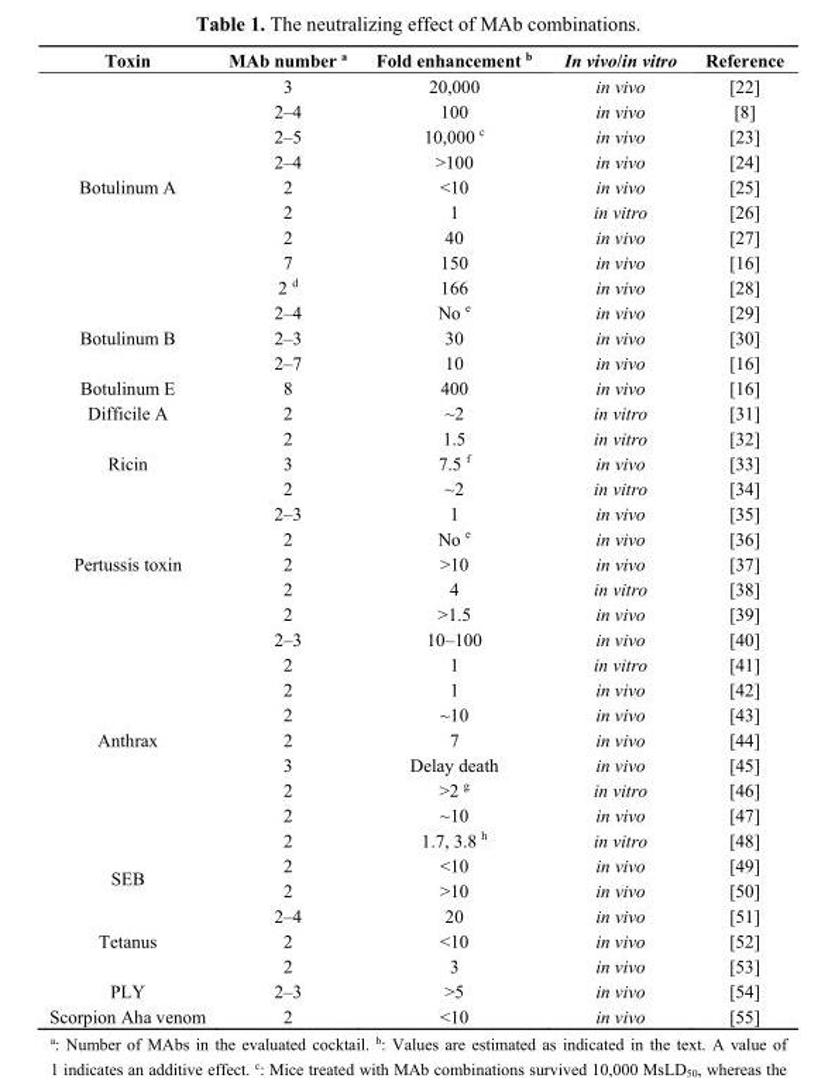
<table><thead><tr><td>Toxin</td><td>MAb number <sup>a</sup></td><td>Fold enhancement <sup>b</sup></td><td>In vivo/in vitro</td><td>Reference</td></tr></thead><tbody><tr><td rowspan="9">Botulinum A</td><td>3</td><td>20,000</td><td>in vivo</td><td>[22]</td></tr><tr><td>2–4</td><td>100</td><td>in vivo</td><td>[8]</td></tr><tr><td>2–5</td><td>10,000 <sup>c</sup></td><td>in vivo</td><td>[23]</td></tr><tr><td>2–4</td><td>&gt;100</td><td>in vivo</td><td>[24]</td></tr><tr><td>2</td><td>&lt;10</td><td>in vivo</td><td>[25]</td></tr><tr><td>2</td><td>1</td><td>in vitro</td><td>[26]</td></tr><tr><td>2</td><td>40</td><td>in vivo</td><td>[27]</td></tr><tr><td>7</td><td>150</td><td>in vivo</td><td>[16]</td></tr><tr><td>2 <sup>d</sup></td><td>166</td><td>in vivo</td><td>[28]</td></tr><tr><td rowspan="3">Botulinum B</td><td>2–4</td><td>No <sup>e</sup></td><td>in vivo</td><td>[29]</td></tr><tr><td>2–3</td><td>30</td><td>in vivo</td><td>[30]</td></tr><tr><td>2–7</td><td>10</td><td>in vivo</td><td>[16]</td></tr><tr><td>Botulinum E</td><td>8</td><td>400</td><td>in vivo</td><td>[16]</td></tr><tr><td>Difficile A</td><td>2</td><td>~2</td><td>in vitro</td><td>[31]</td></tr><tr><td rowspan="3">Ricin</td><td>2</td><td>1.5</td><td>in vitro</td><td>[32]</td></tr><tr><td>3</td><td>7.5 <sup>f</sup></td><td>in vivo</td><td>[33]</td></tr><tr><td>2</td><td>~2</td><td>in vitro</td><td>[34]</td></tr><tr><td rowspan="5">Pertussis toxin</td><td>2–3</td><td>1</td><td>in vivo</td><td>[35]</td></tr><tr><td>2</td><td>No <sup>e</sup></td><td>in vivo</td><td>[36]</td></tr><tr><td>2</td><td>&gt;10</td><td>in vivo</td><td>[37]</td></tr><tr><td>2</td><td>4</td><td>in vitro</td><td>[38]</td></tr><tr><td>2</td><td>&gt;1.5</td><td>in vivo</td><td>[39]</td></tr><tr><td rowspan="9">Anthrax</td><td>2–3</td><td>10–100</td><td>in vivo</td><td>[40]</td></tr><tr><td>2</td><td>1</td><td>in vitro</td><td>[41]</td></tr><tr><td>2</td><td>1</td><td>in vivo</td><td>[42]</td></tr><tr><td>2</td><td>~10</td><td>in vivo</td><td>[43]</td></tr><tr><td>2</td><td>7</td><td>in vivo</td><td>[44]</td></tr><tr><td>3</td><td>Delay death</td><td>in vivo</td><td>[45]</td></tr><tr><td>2</td><td>&gt;2 <sup>g</sup></td><td>in vitro</td><td>[46]</td></tr><tr><td>2</td><td>~10</td><td>in vivo</td><td>[47]</td></tr><tr><td>2</td><td>1.7, 3.8 <sup>h</sup></td><td>in vitro</td><td>[48]</td></tr><tr><td rowspan="2">SEB</td><td>2</td><td>&lt;10</td><td>in vivo</td><td>[49]</td></tr><tr><td>2</td><td>&gt;10</td><td>in vivo</td><td>[50]</td></tr><tr><td rowspan="3">Tetanus</td><td>2–4</td><td>20</td><td>in vivo</td><td>[51]</td></tr><tr><td>2</td><td>&lt;10</td><td>in vivo</td><td>[52]</td></tr><tr><td>2</td><td>3</td><td>in vivo</td><td>[53]</td></tr><tr><td>PLY</td><td>2–3</td><td>&gt;5</td><td>in vivo</td><td>[54]</td></tr><tr><td>Scorpion Aha venom</td><td>2</td><td>&lt;10</td><td>in vivo</td><td>[55]</td></tr></tbody></table>